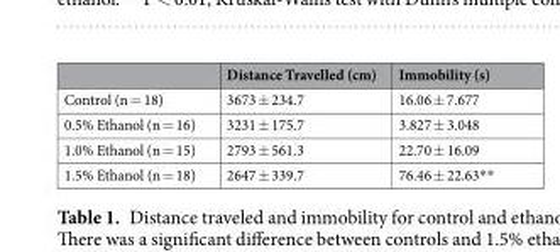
<table><thead><tr><td></td><td>Distance Travelled (cm)</td><td>Immobility (s)</td></tr></thead><tbody><tr><td>Control (n = 18)</td><td>3673 ± 234.7</td><td>16.06 ± 7.677</td></tr><tr><td>0.5% Ethanol (n = 16)</td><td>3231 ± 175.7</td><td>3.827 ± 3.048</td></tr><tr><td>1.0% Ethanol (n = 15)</td><td>2793 ± 561.3</td><td>22.70 ± 16.09</td></tr><tr><td>1.5% Ethanol (n = 18)</td><td>2647 ± 339.7</td><td>76.46 ± 22.63**</td></tr></tbody></table>